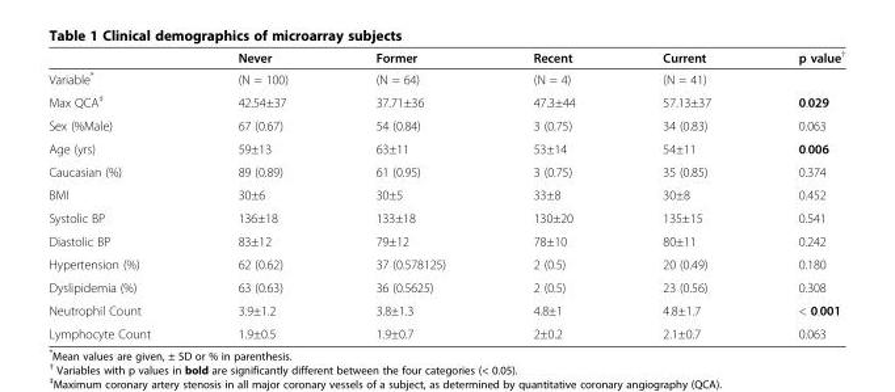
<table><thead><tr><td></td><td>Never</td><td>Former</td><td>Recent</td><td>Current</td><td>p value<sup>†</sup></td></tr></thead><tbody><tr><td>Variable*</td><td>(N = 100)</td><td>(N = 64)</td><td>(N = 4)</td><td>(N = 41)</td><td></td></tr><tr><td>Max QCA<sup>‡</sup></td><td>42.54±37</td><td>37.71±36</td><td>47.3±44</td><td>57.13±37</td><td>0.029</td></tr><tr><td>Sex (%Male)</td><td>67 (0.67)</td><td>54 (0.84)</td><td>3 (0.75)</td><td>34 (0.83)</td><td>0.063</td></tr><tr><td>Age (yrs)</td><td>59±13</td><td>63±11</td><td>53±14</td><td>54±11</td><td>0.006</td></tr><tr><td>Caucasian (%)</td><td>89 (0.89)</td><td>61 (0.95)</td><td>3 (0.75)</td><td>35 (0.85)</td><td>0.374</td></tr><tr><td>BMI</td><td>30±6</td><td>30±5</td><td>33±8</td><td>30±8</td><td>0.452</td></tr><tr><td>Systolic BP</td><td>136±18</td><td>133±18</td><td>130±20</td><td>135±15</td><td>0.541</td></tr><tr><td>Diastolic BP</td><td>83±12</td><td>79±12</td><td>78±10</td><td>80±11</td><td>0.242</td></tr><tr><td>Hypertension (%)</td><td>62 (0.62)</td><td>37 (0.578125)</td><td>2 (0.5)</td><td>20 (0.49)</td><td>0.180</td></tr><tr><td>Dyslipidemia (%)</td><td>63 (0.63)</td><td>36 (0.5625)</td><td>2 (0.5)</td><td>23 (0.56)</td><td>0.308</td></tr><tr><td>Neutrophil Count</td><td>3.9±1.2</td><td>3.8±1.3</td><td>4.8±1</td><td>4.8±1.7</td><td>&lt; 0.001</td></tr><tr><td>Lymphocyte Count</td><td>1.9±0.5</td><td>1.9±0.7</td><td>2±0.2</td><td>2.1±0.7</td><td>0.063</td></tr></tbody></table>